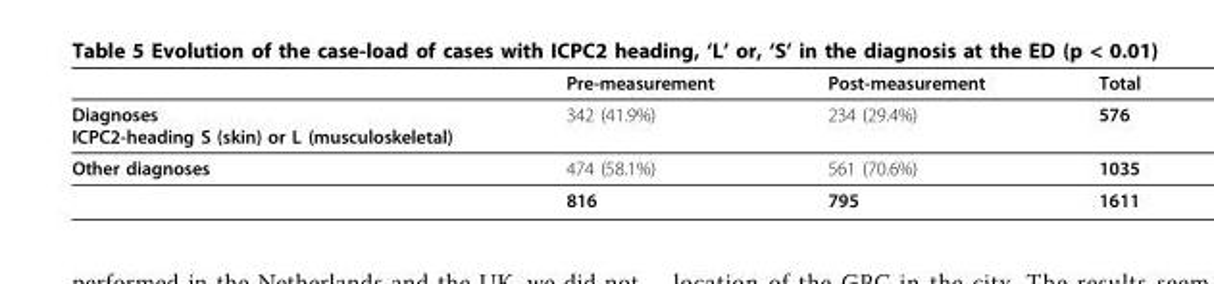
<table><thead><tr><td></td><td>Pre-measurement</td><td>Post-measurement</td><td>Total</td></tr></thead><tbody><tr><td>Diagnoses ICPC2-heading S (skin) or L (musculoskeletal)</td><td>342 (41.9%)</td><td>234 (29.4%)</td><td>576</td></tr><tr><td rowspan="2">Other diagnoses</td><td>474 (58.1%)</td><td>561 (70.6%)</td><td>1035</td></tr><tr><td>816</td><td>795</td><td>1611</td></tr></tbody></table>